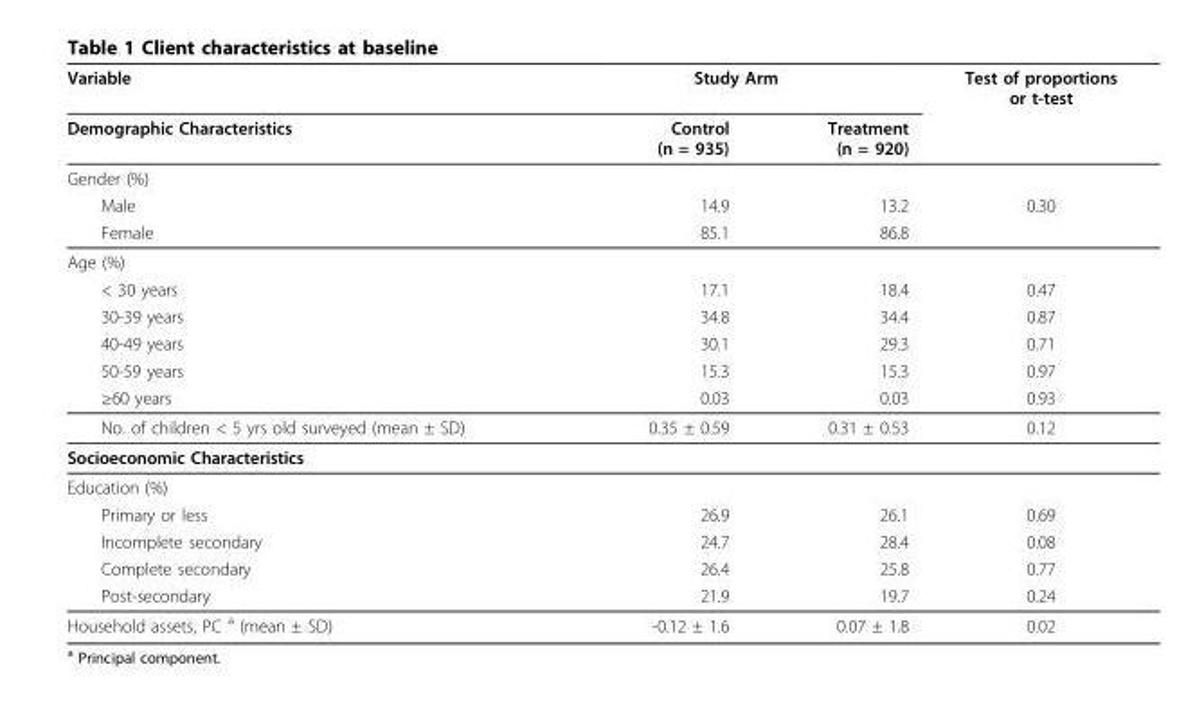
<table><thead><tr><td rowspan="2">Variable Demographic Characteristics</td><td colspan="2">Study Arm</td><td rowspan="2">Test of proportions or t-test</td></tr><tr><td>Control (n = 935)</td><td>Treatment (n = 920)</td></tr></thead><tbody><tr><td colspan="4">Gender (%)</td></tr><tr><td>Male</td><td>14.9</td><td>13.2</td><td>0.30</td></tr><tr><td>Female</td><td>85.1</td><td>86.8</td><td></td></tr><tr><td colspan="4">Age (%)</td></tr><tr><td>&lt; 30 years</td><td>17.1</td><td>18.4</td><td>0.47</td></tr><tr><td>30-39 years</td><td>34.8</td><td>34.4</td><td>0.87</td></tr><tr><td>40-49 years</td><td>30.1</td><td>29.3</td><td>0.71</td></tr><tr><td>50-59 years</td><td>15.3</td><td>15.3</td><td>0.97</td></tr><tr><td>≥60 years</td><td>0.03</td><td>0.03</td><td>0.93</td></tr><tr><td>No. of children &lt; 5 yrs old surveyed (mean ± SD)</td><td>0.35 ± 0.59</td><td>0.31 ± 0.53</td><td>0.12</td></tr><tr><td colspan="4">Socioeconomic Characteristics</td></tr><tr><td colspan="4">Education (%)</td></tr><tr><td>Primary or less</td><td>26.9</td><td>26.1</td><td>0.69</td></tr><tr><td>Incomplete secondary</td><td>24.7</td><td>28.4</td><td>0.08</td></tr><tr><td>Complete secondary</td><td>26.4</td><td>25.8</td><td>0.77</td></tr><tr><td>Post-secondary</td><td>21.9</td><td>19.7</td><td>0.24</td></tr><tr><td>Household assets, PC <sup>a</sup> (mean ± SD)</td><td>-0.12 ± 1.6</td><td>0.07 ± 1.8</td><td>0.02</td></tr></tbody></table>